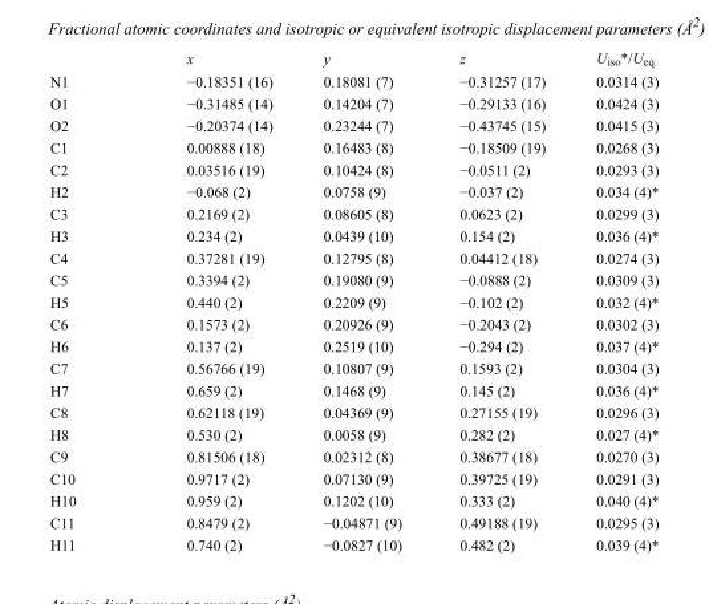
<table><thead><tr><td></td><td>x</td><td>y</td><td>z</td><td>U<sub>iso</sub>*/U<sub>eq</sub></td></tr></thead><tbody><tr><td>N1</td><td>−0.18351 (16)</td><td>0.18081 (7)</td><td>−0.31257 (17)</td><td>0.0314 (3)</td></tr><tr><td>O1</td><td>−0.31485 (14)</td><td>0.14204 (7)</td><td>−0.29133 (16)</td><td>0.0424 (3)</td></tr><tr><td>O2</td><td>−0.20374 (14)</td><td>0.23244 (7)</td><td>−0.43745 (15)</td><td>0.0415 (3)</td></tr><tr><td>C1</td><td>0.00888 (18)</td><td>0.16483 (8)</td><td>−0.18509 (19)</td><td>0.0268 (3)</td></tr><tr><td>C2</td><td>0.03516 (19)</td><td>0.10424 (8)</td><td>−0.0511 (2)</td><td>0.0293 (3)</td></tr><tr><td>H2</td><td>−0.068 (2)</td><td>0.0758 (9)</td><td>−0.037 (2)</td><td>0.034 (4)*</td></tr><tr><td>C3</td><td>0.2169 (2)</td><td>0.08605 (8)</td><td>0.0623 (2)</td><td>0.0299 (3)</td></tr><tr><td>H3</td><td>0.234 (2)</td><td>0.0439 (10)</td><td>0.154 (2)</td><td>0.036 (4)*</td></tr><tr><td>C4</td><td>0.37281 (19)</td><td>0.12795 (8)</td><td>0.04412 (18)</td><td>0.0274 (3)</td></tr><tr><td>C5</td><td>0.3394 (2)</td><td>0.19080 (9)</td><td>−0.0888 (2)</td><td>0.0309 (3)</td></tr><tr><td>H5</td><td>0.440 (2)</td><td>0.2209 (9)</td><td>−0.102 (2)</td><td>0.032 (4)*</td></tr><tr><td>C6</td><td>0.1573 (2)</td><td>0.20926 (9)</td><td>−0.2043 (2)</td><td>0.0302 (3)</td></tr><tr><td>H6</td><td>0.137 (2)</td><td>0.2519 (10)</td><td>−0.294 (2)</td><td>0.037 (4)*</td></tr><tr><td>C7</td><td>0.56766 (19)</td><td>0.10807 (9)</td><td>0.1593 (2)</td><td>0.0304 (3)</td></tr><tr><td>H7</td><td>0.659 (2)</td><td>0.1468 (9)</td><td>0.145 (2)</td><td>0.036 (4)*</td></tr><tr><td>C8</td><td>0.62118 (19)</td><td>0.04369 (9)</td><td>0.27155 (19)</td><td>0.0296 (3)</td></tr><tr><td>H8</td><td>0.530 (2)</td><td>0.0058 (9)</td><td>0.282 (2)</td><td>0.027 (4)*</td></tr><tr><td>C9</td><td>0.81506 (18)</td><td>0.02312 (8)</td><td>0.38677 (18)</td><td>0.0270 (3)</td></tr><tr><td>C10</td><td>0.9717 (2)</td><td>0.07130 (9)</td><td>0.39725 (19)</td><td>0.0291 (3)</td></tr><tr><td>H10</td><td>0.959 (2)</td><td>0.1202 (10)</td><td>0.333 (2)</td><td>0.040 (4)*</td></tr><tr><td>C11</td><td>0.8479 (2)</td><td>−0.04871 (9)</td><td>0.49188 (19)</td><td>0.0295 (3)</td></tr><tr><td>H11</td><td>0.740 (2)</td><td>−0.0827 (10)</td><td>0.482 (2)</td><td>0.039 (4)*</td></tr></tbody></table>